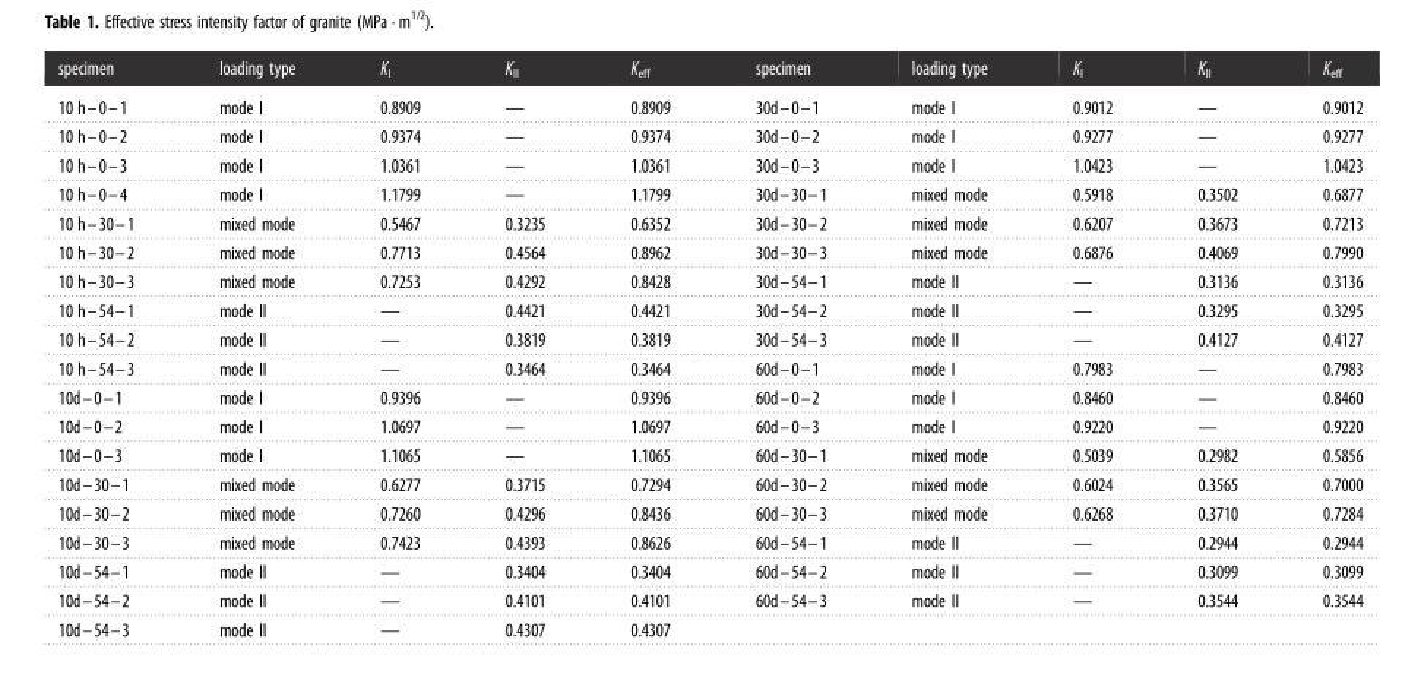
<table><thead><tr><td>specimen</td><td>loading type</td><td>K<sub>I</sub></td><td>K<sub>II</sub></td><td>K<sub>eff</sub></td><td>specimen</td><td>loading type</td><td>K<sub>I</sub></td><td>K<sub>II</sub></td><td>K<sub>eff</sub></td></tr></thead><tbody><tr><td>10 h–0–1</td><td>mode I</td><td>0.8909</td><td>—</td><td>0.8909</td><td>30d–0–1</td><td>mode I</td><td>0.9012</td><td>—</td><td>0.9012</td></tr><tr><td>10 h–0–2</td><td>mode I</td><td>0.9374</td><td>—</td><td>0.9374</td><td>30d–0–2</td><td>mode I</td><td>0.9277</td><td>—</td><td>0.9277</td></tr><tr><td>10 h–0–3</td><td>mode I</td><td>1.0361</td><td>—</td><td>1.0361</td><td>30d–0–3</td><td>mode I</td><td>1.0423</td><td>—</td><td>1.0423</td></tr><tr><td>10 h–0–4</td><td>mode I</td><td>1.1799</td><td>—</td><td>1.1799</td><td>30d–30–1</td><td>mixed mode</td><td>0.5918</td><td>0.3502</td><td>0.6877</td></tr><tr><td>10 h–30–1</td><td>mixed mode</td><td>0.5467</td><td>0.3235</td><td>0.6352</td><td>30d–30–2</td><td>mixed mode</td><td>0.6207</td><td>0.3673</td><td>0.7213</td></tr><tr><td>10 h–30–2</td><td>mixed mode</td><td>0.7713</td><td>0.4564</td><td>0.8962</td><td>30d–30–3</td><td>mixed mode</td><td>0.6876</td><td>0.4069</td><td>0.7990</td></tr><tr><td>10 h–30–3</td><td>mixed mode</td><td>0.7253</td><td>0.4292</td><td>0.8428</td><td>30d–54–1</td><td>mode II</td><td>—</td><td>0.3136</td><td>0.3136</td></tr><tr><td>10 h–54–1</td><td>mode II</td><td>—</td><td>0.4421</td><td>0.4421</td><td>30d–54–2</td><td>mode II</td><td>—</td><td>0.3295</td><td>0.3295</td></tr><tr><td>10 h–54–2</td><td>mode II</td><td>—</td><td>0.3819</td><td>0.3819</td><td>30d–54–3</td><td>mode II</td><td>—</td><td>0.4127</td><td>0.4127</td></tr><tr><td>10 h–54–3</td><td>mode II</td><td>—</td><td>0.3464</td><td>0.3464</td><td>60d–0–1</td><td>mode I</td><td>0.7983</td><td>—</td><td>0.7983</td></tr><tr><td>10d–0–1</td><td>mode I</td><td>0.9396</td><td>—</td><td>0.9396</td><td>60d–0–2</td><td>mode I</td><td>0.8460</td><td>—</td><td>0.8460</td></tr><tr><td>10d–0–2</td><td>mode I</td><td>1.0697</td><td>—</td><td>1.0697</td><td>60d–0–3</td><td>mode I</td><td>0.9220</td><td>—</td><td>0.9220</td></tr><tr><td>10d–0–3</td><td>mode I</td><td>1.1065</td><td>—</td><td>1.1065</td><td>60d–30–1</td><td>mixed mode</td><td>0.5039</td><td>0.2982</td><td>0.5856</td></tr><tr><td>10d–30–1</td><td>mixed mode</td><td>0.6277</td><td>0.3715</td><td>0.7294</td><td>60d–30–2</td><td>mixed mode</td><td>0.6024</td><td>0.3565</td><td>0.7000</td></tr><tr><td>10d–30–2</td><td>mixed mode</td><td>0.7260</td><td>0.4296</td><td>0.8436</td><td>60d–30–3</td><td>mixed mode</td><td>0.6268</td><td>0.3710</td><td>0.7284</td></tr><tr><td>10d–30–3</td><td>mixed mode</td><td>0.7423</td><td>0.4393</td><td>0.8626</td><td>60d–54–1</td><td>mode II</td><td>—</td><td>0.2944</td><td>0.2944</td></tr><tr><td>10d–54–1</td><td>mode II</td><td>—</td><td>0.3404</td><td>0.3404</td><td>60d–54–2</td><td>mode II</td><td>—</td><td>0.3099</td><td>0.3099</td></tr><tr><td>10d–54–2</td><td>mode II</td><td>—</td><td>0.4101</td><td>0.4101</td><td>60d–54–3</td><td>mode II</td><td>—</td><td>0.3544</td><td>0.3544</td></tr><tr><td>10d–54–3</td><td>mode II</td><td>—</td><td>0.4307</td><td>0.4307</td><td></td><td></td><td></td><td></td><td></td></tr></tbody></table>